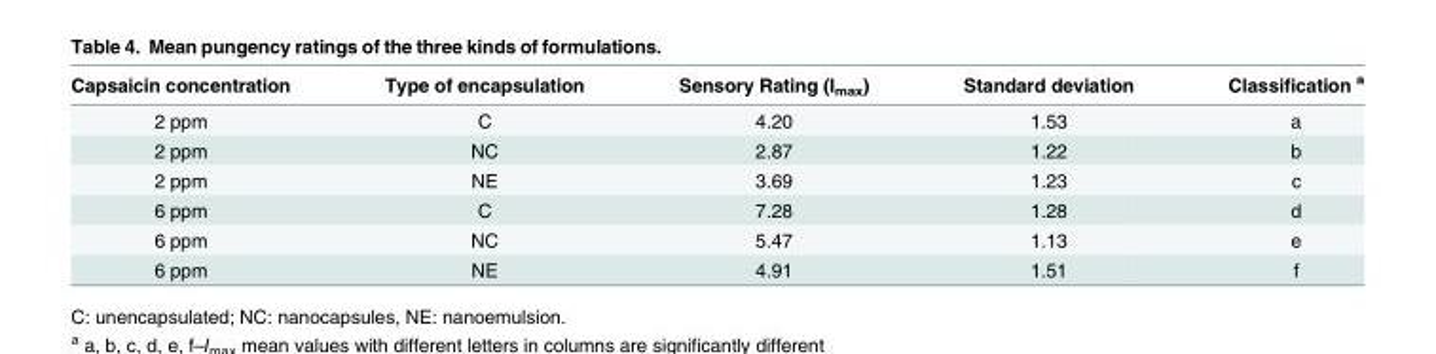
<table><thead><tr><td>Capsaicin concentration</td><td>Type of encapsulation</td><td>Sensory Rating (I<sub>max</sub>)</td><td>Standard deviation</td><td>Classification <sup>a</sup></td></tr></thead><tbody><tr><td>2 ppm</td><td>C</td><td>4.20</td><td>1.53</td><td>a</td></tr><tr><td>2 ppm</td><td>NC</td><td>2.87</td><td>1.22</td><td>b</td></tr><tr><td>2 ppm</td><td>NE</td><td>3.69</td><td>1.23</td><td>c</td></tr><tr><td>6 ppm</td><td>C</td><td>7.28</td><td>1.28</td><td>d</td></tr><tr><td>6 ppm</td><td>NC</td><td>5.47</td><td>1.13</td><td>e</td></tr><tr><td>6 ppm</td><td>NE</td><td>4.91</td><td>1.51</td><td>f</td></tr></tbody></table>